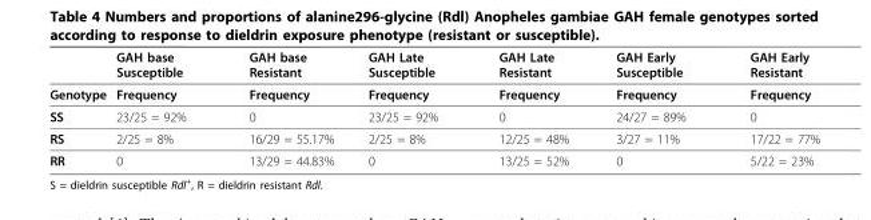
<table><thead><tr><td></td><td>GAH base Susceptible</td><td>GAH base Resistant</td><td>GAH Late Susceptible</td><td>GAH Late Resistant</td><td>GAH Early Susceptible</td><td>GAH Early Resistant</td></tr></thead><tbody><tr><td>Genotype</td><td>Frequency</td><td>Frequency</td><td>Frequency</td><td>Frequency</td><td>Frequency</td><td>Frequency</td></tr><tr><td>SS</td><td>23/25 = 92%</td><td>0</td><td>23/25 = 92%</td><td>0</td><td>24/27 = 89%</td><td>0</td></tr><tr><td>RS</td><td>2/25 = 8%</td><td>16/29 = 55.17%</td><td>2/25 = 8%</td><td>12/25 = 48%</td><td>3/27 = 11%</td><td>17/22 = 77%</td></tr><tr><td>RR</td><td>0</td><td>13/29 = 44.83%</td><td>0</td><td>13/25 = 52%</td><td>0</td><td>5/22 = 23%</td></tr></tbody></table>